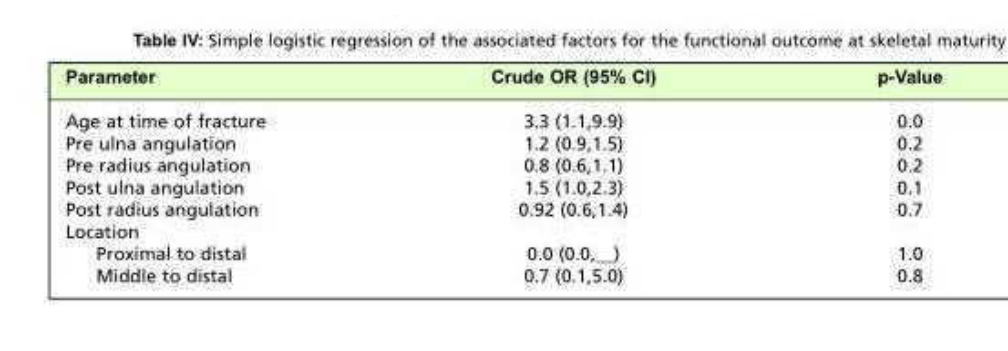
<table><thead><tr><td>Parameter</td><td>Crude OR (95% CI)</td><td>p-Value</td></tr></thead><tbody><tr><td>Age at time of fracture</td><td>3.3 (1.1,9.9)</td><td>0.0</td></tr><tr><td>Pre ulna angulation</td><td>1.2 (0.9,1.5)</td><td>0.2</td></tr><tr><td>Pre radius angulation</td><td>0.8 (0.6,1.1)</td><td>0.2</td></tr><tr><td>Post ulna angulation</td><td>1.5 (1.0,2.3)</td><td>0.1</td></tr><tr><td>Post radius angulation</td><td>0.92 (0.6,1.4)</td><td>0.7</td></tr><tr><td colspan="3">Location</td></tr><tr><td>Proximal to distal</td><td>0.0 (0.0,__)</td><td>1.0</td></tr><tr><td>Middle to distal</td><td>0.7 (0.1,5.0)</td><td>0.8</td></tr></tbody></table>